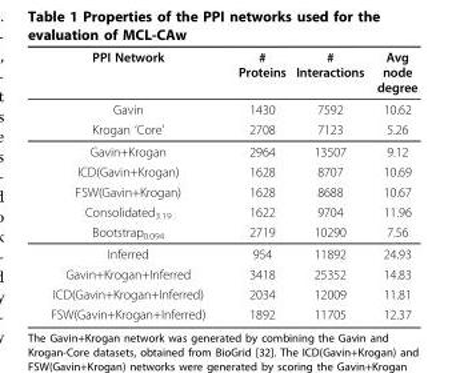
<table><thead><tr><td>PPI Network</td><td># Proteins</td><td># Interactions</td><td>Avg node degree</td></tr></thead><tbody><tr><td>Gavin</td><td>1430</td><td>7592</td><td>10.62</td></tr><tr><td>Krogan ‘Core’</td><td>2708</td><td>7123</td><td>5.26</td></tr><tr><td>Gavin+Krogan</td><td>2964</td><td>13507</td><td>9.12</td></tr><tr><td>ICD(Gavin+Krogan)</td><td>1628</td><td>8707</td><td>10.69</td></tr><tr><td>FSW(Gavin+Krogan)</td><td>1628</td><td>8688</td><td>10.67</td></tr><tr><td>Consolidated<sub>3.19</sub></td><td>1622</td><td>9704</td><td>11.96</td></tr><tr><td>Bootstrap<sub>0.094</sub></td><td>2719</td><td>10290</td><td>7.56</td></tr><tr><td>Inferred</td><td>954</td><td>11892</td><td>24.93</td></tr><tr><td>Gavin+Krogan+Inferred</td><td>3418</td><td>25352</td><td>14.83</td></tr><tr><td>ICD(Gavin+Krogan+Inferred)</td><td>2034</td><td>12009</td><td>11.81</td></tr><tr><td>FSW(Gavin+Krogan+Inferred)</td><td>1892</td><td>11705</td><td>12.37</td></tr></tbody></table>